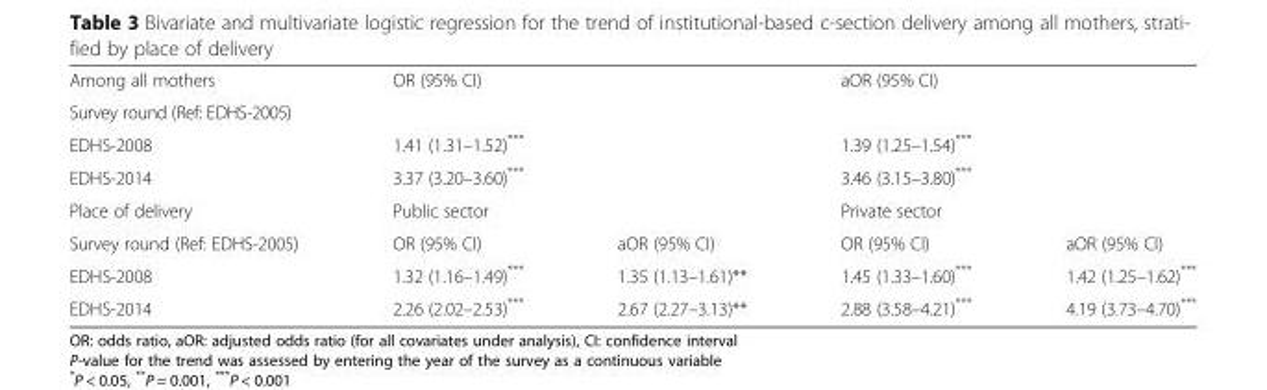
<table><tbody><tr><td>Among all mothers</td><td rowspan="2" colspan="2">OR (95% CI)</td><td rowspan="2" colspan="2">aOR (95% CI)</td></tr><tr><td>Survey round (Ref: EDHS-2005)</td></tr><tr><td>EDHS-2008</td><td colspan="2">1.41 (1.31–1.52)***</td><td colspan="2">1.39 (1.25–1.54)***</td></tr><tr><td>EDHS-2014</td><td colspan="2">3.37 (3.20–3.60)***</td><td colspan="2">3.46 (3.15–3.80)***</td></tr><tr><td>Place of delivery</td><td colspan="2">Public sector</td><td colspan="2">Private sector</td></tr><tr><td>Survey round (Ref: EDHS-2005)</td><td>OR (95% CI)</td><td>aOR (95% CI)</td><td>OR (95% CI)</td><td>aOR (95% CI)</td></tr><tr><td>EDHS-2008</td><td>1.32 (1.16–1.49)***</td><td>1.35 (1.13–1.61)**</td><td>1.45 (1.33–1.60)***</td><td>1.42 (1.25–1.62)***</td></tr><tr><td>EDHS-2014</td><td>2.26 (2.02–2.53)***</td><td>2.67 (2.27–3.13)**</td><td>2.88 (3.58–4.21)***</td><td>4.19 (3.73–4.70)***</td></tr></tbody></table>